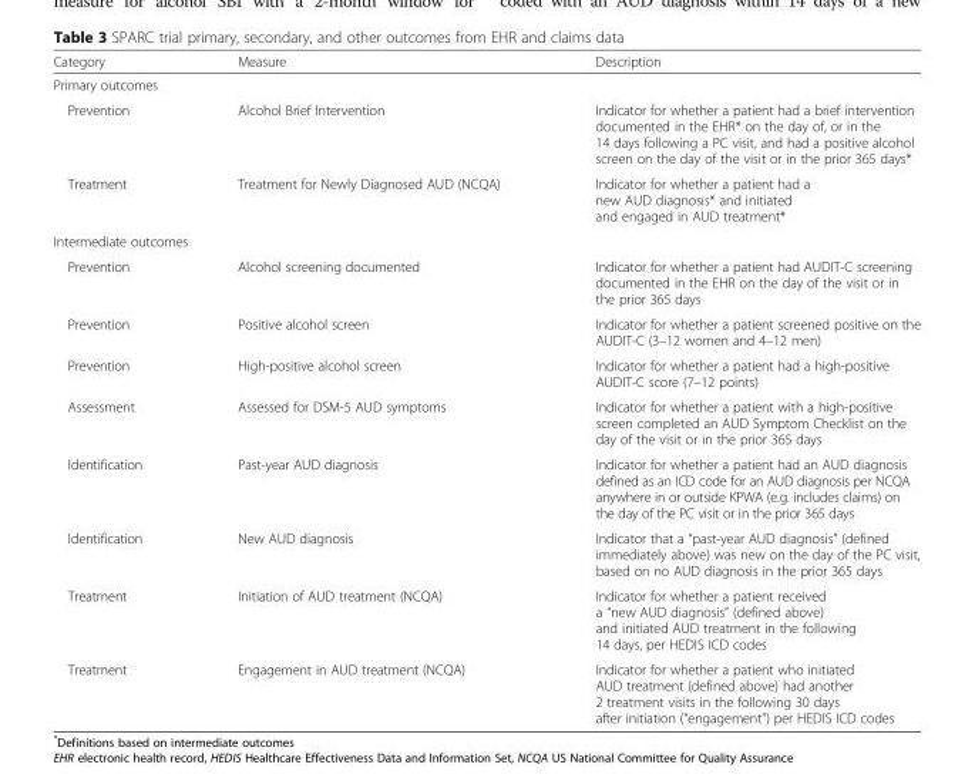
<table><thead><tr><td>Category</td><td>Measure</td><td>Description</td></tr></thead><tbody><tr><td colspan="3">Primary outcomes</td></tr><tr><td>Prevention</td><td>Alcohol Brief Intervention</td><td>Indicator for whether a patient had a brief intervention documented in the EHR* on the day of, or in the 14 days following a PC visit, and had a positive alcohol screen on the day of the visit or in the prior 365 days*</td></tr><tr><td>Treatment</td><td>Treatment for Newly Diagnosed AUD (NCQA)</td><td>Indicator for whether a patient had a new AUD diagnosis* and initiated and engaged in AUD treatment*</td></tr><tr><td colspan="3">Intermediate outcomes</td></tr><tr><td>Prevention</td><td>Alcohol screening documented</td><td>Indicator for whether a patient had AUDIT-C screening documented in the EHR on the day of the visit or in the prior 365 days</td></tr><tr><td>Prevention</td><td>Positive alcohol screen</td><td>Indicator for whether a patient screened positive on the AUDIT-C (3–12 women and 4–12 men)</td></tr><tr><td>Prevention</td><td>High-positive alcohol screen</td><td>Indicator for whether a patient had a high-positive AUDIT-C score (7–12 points)</td></tr><tr><td>Assessment</td><td>Assessed for DSM-5 AUD symptoms</td><td>Indicator for whether a patient with a high-positive screen completed an AUD Symptom Checklist on the day of the visit or in the prior 365 days</td></tr><tr><td>Identification</td><td>Past-year AUD diagnosis</td><td>Indicator for whether a patient had an AUD diagnosis defined as an ICD code for an AUD diagnosis per NCQA anywhere in or outside KPWA (e.g. includes claims) on the day of the PC visit or in the prior 365 days</td></tr><tr><td>Identification</td><td>New AUD diagnosis</td><td>Indicator that a “past-year AUD diagnosis” (defined immediately above) was new on the day of the PC visit, based on no AUD diagnosis in the prior 365 days</td></tr><tr><td>Treatment</td><td>Initiation of AUD treatment (NCQA)</td><td>Indicator for whether a patient received a “new AUD diagnosis” (defined above) and initiated AUD treatment in the following 14 days, per HEDIS ICD codes</td></tr><tr><td>Treatment</td><td>Engagement in AUD treatment (NCQA)</td><td>Indicator for whether a patient who initiated AUD treatment (defined above) had another 2 treatment visits in the following 30 days after initiation (“engagement”) per HEDIS ICD codes</td></tr></tbody></table>